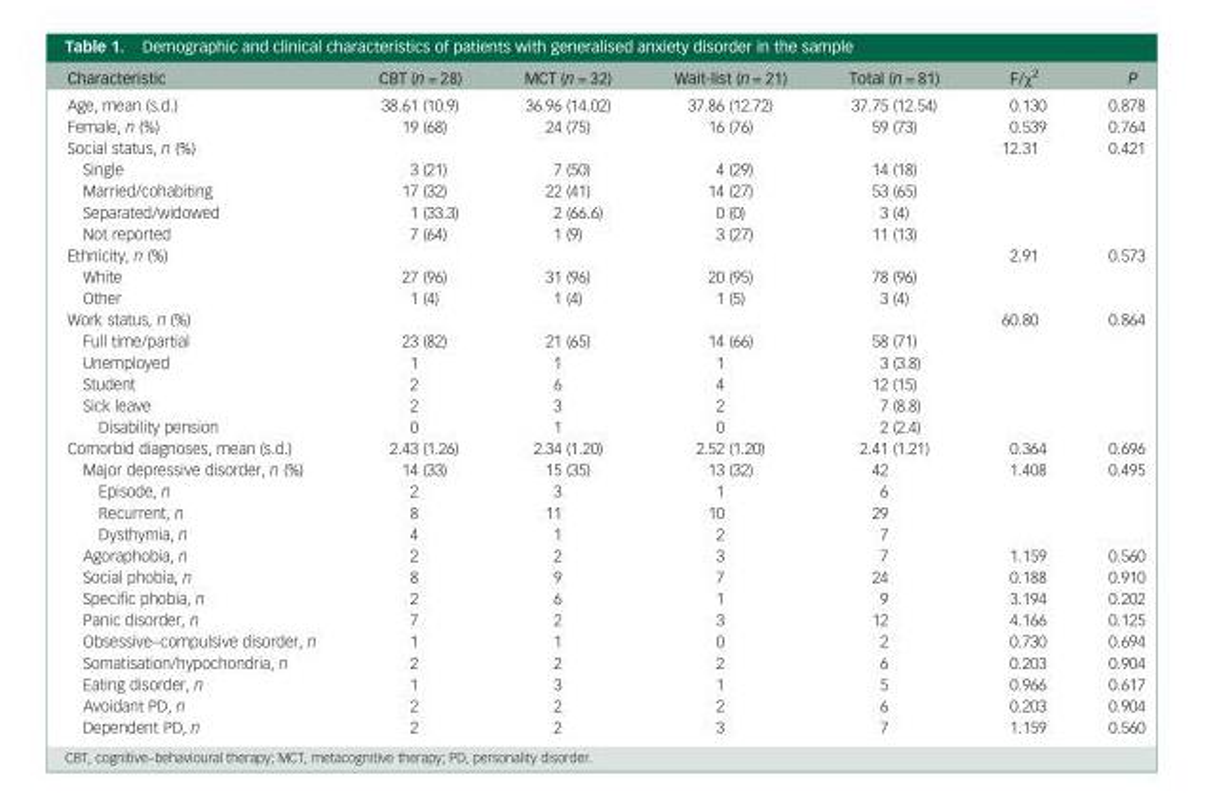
<table><thead><tr><td>Characteristic</td><td>CBT (n = 28)</td><td>MCT (n = 32)</td><td>Wait-list (n = 21)</td><td>Total (n = 81)</td><td>F/χ<sup>2</sup></td><td>P</td></tr></thead><tbody><tr><td>Age, mean (s.d.)</td><td>38.61 (10.9)</td><td>36.96 (14.02)</td><td>37.86 (12.72)</td><td>37.75 (12.54)</td><td>0.130</td><td>0.878</td></tr><tr><td>Female, n (%)</td><td>19 (68)</td><td>24 (75)</td><td>16 (76)</td><td>59 (73)</td><td>0.539</td><td>0.764</td></tr><tr><td>Social status, n (%)</td><td></td><td></td><td></td><td></td><td>12.31</td><td>0.421</td></tr><tr><td>Single</td><td>3 (21)</td><td>7 (50)</td><td>4 (29)</td><td>14 (18)</td><td></td><td></td></tr><tr><td>Married/cohabiting</td><td>17 (32)</td><td>22 (41)</td><td>14 (27)</td><td>53 (65)</td><td></td><td></td></tr><tr><td>Separated/widowed</td><td>1 (33.3)</td><td>2 (66.6)</td><td>0 (0)</td><td>3 (4)</td><td></td><td></td></tr><tr><td>Not reported</td><td>7 (64)</td><td>1 (9)</td><td>3 (27)</td><td>11 (13)</td><td></td><td></td></tr><tr><td>Ethnicity, n (%)</td><td></td><td></td><td></td><td></td><td>2.91</td><td>0.573</td></tr><tr><td>White</td><td>27 (96)</td><td>31 (96)</td><td>20 (95)</td><td>78 (96)</td><td></td><td></td></tr><tr><td>Other</td><td>1 (4)</td><td>1 (4)</td><td>1 (5)</td><td>3 (4)</td><td></td><td></td></tr><tr><td>Work status, n (%)</td><td></td><td></td><td></td><td></td><td>60.80</td><td>0.864</td></tr><tr><td>Full time/partial</td><td>23 (82)</td><td>21 (65)</td><td>14 (66)</td><td>58 (71)</td><td></td><td></td></tr><tr><td>Unemployed</td><td>1</td><td>1</td><td>1</td><td>3 (3.8)</td><td></td><td></td></tr><tr><td>Student</td><td>2</td><td>6</td><td>4</td><td>12 (15)</td><td></td><td></td></tr><tr><td>Sick leave</td><td>2</td><td>3</td><td>2</td><td>7 (8.8)</td><td></td><td></td></tr><tr><td>Disability pension</td><td>0</td><td>1</td><td>0</td><td>2 (2.4)</td><td></td><td></td></tr><tr><td>Comorbid diagnoses, mean (s.d.)</td><td>2.43 (1.26)</td><td>2.34 (1.20)</td><td>2.52 (1.20)</td><td>2.41 (1.21)</td><td>0.364</td><td>0.696</td></tr><tr><td>Major depressive disorder, n (%)</td><td>14 (33)</td><td>15 (35)</td><td>13 (32)</td><td>42</td><td>1.408</td><td>0.495</td></tr><tr><td>Episode, n</td><td>2</td><td>3</td><td>1</td><td>6</td><td></td><td></td></tr><tr><td>Recurrent, n</td><td>8</td><td>11</td><td>10</td><td>29</td><td></td><td></td></tr><tr><td>Dysthymia, n</td><td>4</td><td>1</td><td>2</td><td>7</td><td></td><td></td></tr><tr><td>Agoraphobia, n</td><td>2</td><td>2</td><td>3</td><td>7</td><td>1.159</td><td>0.560</td></tr><tr><td>Social phobia, n</td><td>8</td><td>9</td><td>7</td><td>24</td><td>0.188</td><td>0.910</td></tr><tr><td>Specific phobia, n</td><td>2</td><td>6</td><td>1</td><td>9</td><td>3.194</td><td>0.202</td></tr><tr><td>Panic disorder, n</td><td>7</td><td>2</td><td>3</td><td>12</td><td>4.166</td><td>0.125</td></tr><tr><td>Obsessive–compulsive disorder, n</td><td>1</td><td>1</td><td>0</td><td>2</td><td>0.730</td><td>0.694</td></tr><tr><td>Somatisation/hypochondria, n</td><td>2</td><td>2</td><td>2</td><td>6</td><td>0.203</td><td>0.904</td></tr><tr><td>Eating disorder, n</td><td>1</td><td>3</td><td>1</td><td>5</td><td>0.966</td><td>0.617</td></tr><tr><td>Avoidant PD, n</td><td>2</td><td>2</td><td>2</td><td>6</td><td>0.203</td><td>0.904</td></tr><tr><td>Dependent PD, n</td><td>2</td><td>2</td><td>3</td><td>7</td><td>1.159</td><td>0.560</td></tr></tbody></table>